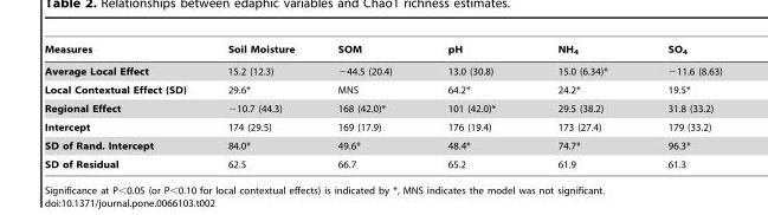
<table><thead><tr><td>Measures</td><td>Soil Moisture</td><td>SOM</td><td>pH</td><td>NH<sub>4</sub></td><td>SO<sub>4</sub></td></tr></thead><tbody><tr><td>Average Local Effect</td><td>15.2 (12.3)</td><td>−44.5 (20.4)</td><td>13.0 (30.8)</td><td>15.0 (6.34)*</td><td>−11.6 (8.63)</td></tr><tr><td>Local Contextual Effect (SD)</td><td>29.6*</td><td>MNS</td><td>64.2*</td><td>24.2*</td><td>19.5*</td></tr><tr><td>Regional Effect</td><td>−10.7 (44.3)</td><td>168 (42.0)*</td><td>101 (42.0)*</td><td>29.5 (38.2)</td><td>31.8 (33.2)</td></tr><tr><td>Intercept</td><td>174 (29.5)</td><td>169 (17.9)</td><td>176 (19.4)</td><td>173 (27.4)</td><td>179 (33.2)</td></tr><tr><td>SD of Rand. Intercept</td><td>84.0*</td><td>49.6*</td><td>48.4*</td><td>74.7*</td><td>96.3*</td></tr><tr><td>SD of Residual</td><td>62.5</td><td>66.7</td><td>65.2</td><td>61.9</td><td>61.3</td></tr></tbody></table>